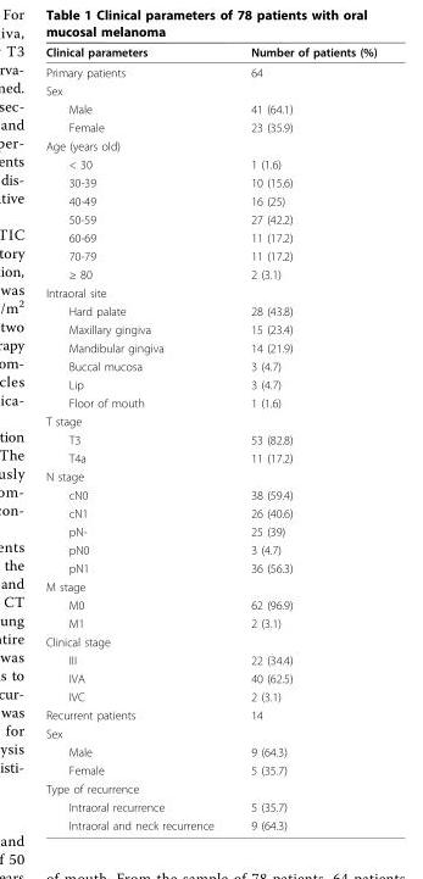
<table><thead><tr><td>Clinical parameters</td><td>Number of patients (%)</td></tr></thead><tbody><tr><td>Primary patients</td><td>64</td></tr><tr><td colspan="2">Sex</td></tr><tr><td>Male</td><td>41 (64.1)</td></tr><tr><td>Female</td><td>23 (35.9)</td></tr><tr><td colspan="2">Age (years old)</td></tr><tr><td>&lt; 30</td><td>1 (1.6)</td></tr><tr><td>30-39</td><td>10 (15.6)</td></tr><tr><td>40-49</td><td>16 (25)</td></tr><tr><td>50-59</td><td>27 (42.2)</td></tr><tr><td>60-69</td><td>11 (17.2)</td></tr><tr><td>70-79</td><td>11 (17.2)</td></tr><tr><td>≥ 80</td><td>2 (3.1)</td></tr><tr><td colspan="2">Intraoral site</td></tr><tr><td>Hard palate</td><td>28 (43.8)</td></tr><tr><td>Maxillary gingiva</td><td>15 (23.4)</td></tr><tr><td>Mandibular gingiva</td><td>14 (21.9)</td></tr><tr><td>Buccal mucosa</td><td>3 (4.7)</td></tr><tr><td>Lip</td><td>3 (4.7)</td></tr><tr><td>Floor of mouth</td><td>1 (1.6)</td></tr><tr><td colspan="2">T stage</td></tr><tr><td>T3</td><td>53 (82.8)</td></tr><tr><td>T4a</td><td>11 (17.2)</td></tr><tr><td colspan="2">N stage</td></tr><tr><td>cN0</td><td>38 (59.4)</td></tr><tr><td>cN1</td><td>26 (40.6)</td></tr><tr><td>pN-</td><td>25 (39)</td></tr><tr><td>pN0</td><td>3 (4.7)</td></tr><tr><td>pN1</td><td>36 (56.3)</td></tr><tr><td colspan="2">M stage</td></tr><tr><td>M0</td><td>62 (96.9)</td></tr><tr><td>M1</td><td>2 (3.1)</td></tr><tr><td colspan="2">Clinical stage</td></tr><tr><td>III</td><td>22 (34.4)</td></tr><tr><td>IVA</td><td>40 (62.5)</td></tr><tr><td>IVC</td><td>2 (3.1)</td></tr><tr><td>Recurrent patients</td><td>14</td></tr><tr><td colspan="2">Sex</td></tr><tr><td>Male</td><td>9 (64.3)</td></tr><tr><td>Female</td><td>5 (35.7)</td></tr><tr><td colspan="2">Type of recurrence</td></tr><tr><td>Intraoral recurrence</td><td>5 (35.7)</td></tr><tr><td>Intraoral and neck recurrence</td><td>9 (64.3)</td></tr></tbody></table>